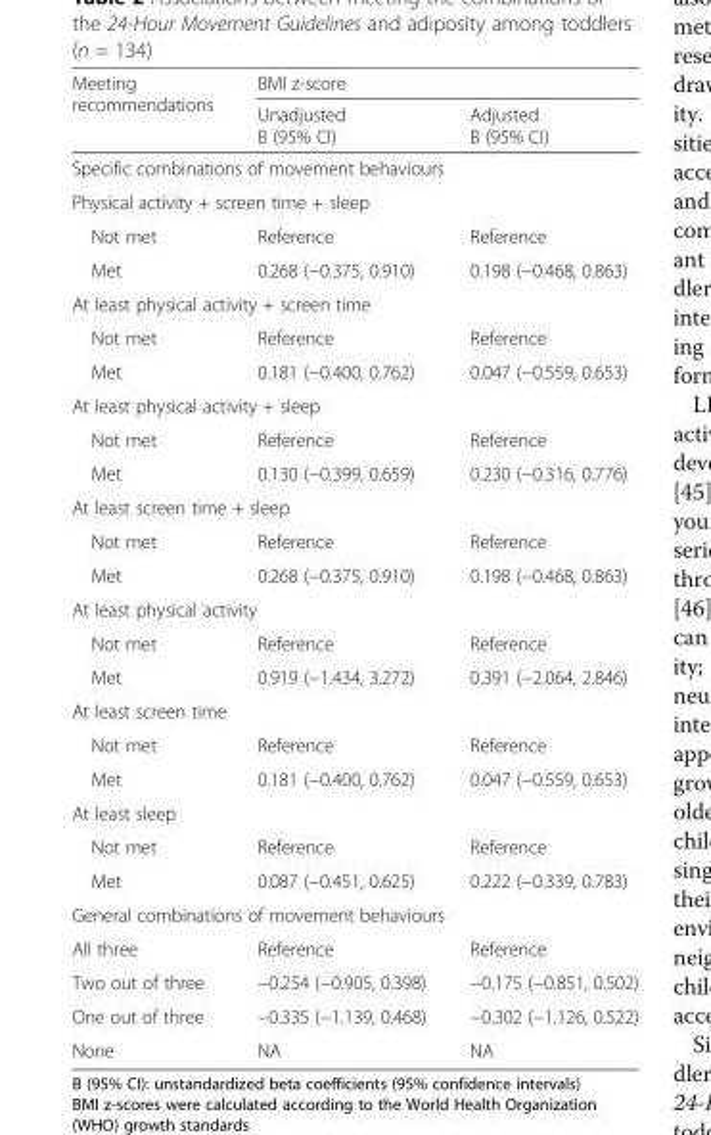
<table><thead><tr><td rowspan="2">Meeting recommendations</td><td colspan="2">BMI z-score</td></tr><tr><td>Unadjusted B (95% CI)</td><td>Adjusted B (95% CI)</td></tr></thead><tbody><tr><td colspan="3">Specific combinations of movement behaviours</td></tr><tr><td colspan="3">Physical activity + screen time + sleep</td></tr><tr><td>Not met</td><td>Reference</td><td>Reference</td></tr><tr><td>Met</td><td>0.268 (−0.375, 0.910)</td><td>0.198 (−0.468, 0.863)</td></tr><tr><td colspan="3">At least physical activity + screen time</td></tr><tr><td>Not met</td><td>Reference</td><td>Reference</td></tr><tr><td>Met</td><td>0.181 (−0.400, 0.762)</td><td>0.047 (−0.559, 0.653)</td></tr><tr><td colspan="3">At least physical activity + sleep</td></tr><tr><td>Not met</td><td>Reference</td><td>Reference</td></tr><tr><td>Met</td><td>0.130 (−0.399, 0.659)</td><td>0.230 (−0.316, 0.776)</td></tr><tr><td colspan="3">At least screen time + sleep</td></tr><tr><td>Not met</td><td>Reference</td><td>Reference</td></tr><tr><td>Met</td><td>0.268 (−0.375, 0.910)</td><td>0.198 (−0.468, 0.863)</td></tr><tr><td colspan="3">At least physical activity</td></tr><tr><td>Not met</td><td>Reference</td><td>Reference</td></tr><tr><td>Met</td><td>0.919 (−1.434, 3.272)</td><td>0.391 (−2.064, 2.846)</td></tr><tr><td colspan="3">At least screen time</td></tr><tr><td>Not met</td><td>Reference</td><td>Reference</td></tr><tr><td>Met</td><td>0.181 (−0.400, 0.762)</td><td>0.047 (−0.559, 0.653)</td></tr><tr><td colspan="3">At least sleep</td></tr><tr><td>Not met</td><td>Reference</td><td>Reference</td></tr><tr><td>Met</td><td>0.087 (−0.451, 0.625)</td><td>0.222 (−0.339, 0.783)</td></tr><tr><td colspan="3">General combinations of movement behaviours</td></tr><tr><td>All three</td><td>Reference</td><td>Reference</td></tr><tr><td>Two out of three</td><td>−0.254 (−0.905, 0.398)</td><td>−0.175 (−0.851, 0.502)</td></tr><tr><td>One out of three</td><td>−0.335 (−1.139, 0.468)</td><td>−0.302 (−1.126, 0.522)</td></tr><tr><td>None</td><td>NA</td><td>NA</td></tr></tbody></table>